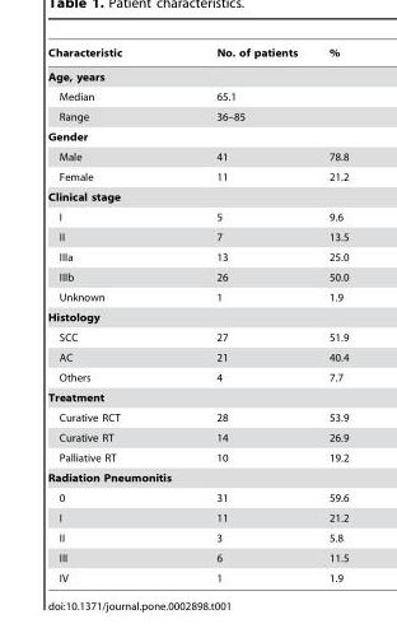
<table><thead><tr><td>Characteristic</td><td>No. of patients</td><td>%</td></tr></thead><tbody><tr><td colspan="3">Age, years</td></tr><tr><td>Median</td><td>65.1</td><td></td></tr><tr><td>Range</td><td>36–85</td><td></td></tr><tr><td colspan="3">Gender</td></tr><tr><td>Male</td><td>41</td><td>78.8</td></tr><tr><td>Female</td><td>11</td><td>21.2</td></tr><tr><td colspan="3">Clinical stage</td></tr><tr><td>I</td><td>5</td><td>9.6</td></tr><tr><td>II</td><td>7</td><td>13.5</td></tr><tr><td>IIIa</td><td>13</td><td>25.0</td></tr><tr><td>IIIb</td><td>26</td><td>50.0</td></tr><tr><td>Unknown</td><td>1</td><td>1.9</td></tr><tr><td colspan="3">Histology</td></tr><tr><td>SCC</td><td>27</td><td>51.9</td></tr><tr><td>AC</td><td>21</td><td>40.4</td></tr><tr><td>Others</td><td>4</td><td>7.7</td></tr><tr><td colspan="3">Treatment</td></tr><tr><td>Curative RCT</td><td>28</td><td>53.9</td></tr><tr><td>Curative RT</td><td>14</td><td>26.9</td></tr><tr><td>Palliative RT</td><td>10</td><td>19.2</td></tr><tr><td colspan="3">Radiation Pneumonitis</td></tr><tr><td>0</td><td>31</td><td>59.6</td></tr><tr><td>I</td><td>11</td><td>21.2</td></tr><tr><td>II</td><td>3</td><td>5.8</td></tr><tr><td>III</td><td>6</td><td>11.5</td></tr><tr><td>IV</td><td>1</td><td>1.9</td></tr></tbody></table>